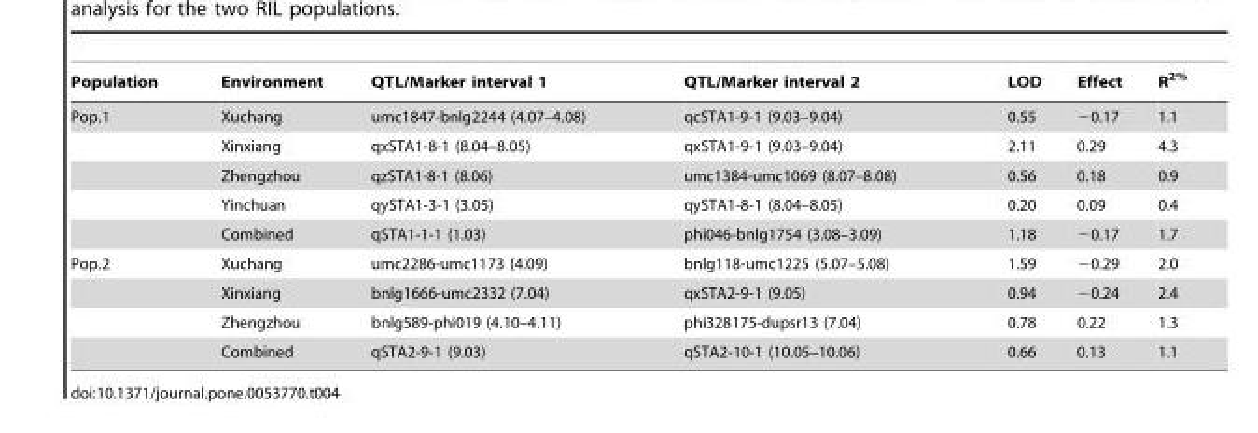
<table><thead><tr><td>Population</td><td>Environment</td><td>QTL/Marker interval 1</td><td>QTL/Marker interval 2</td><td>LOD</td><td>Effect</td><td>R<sup>2%</sup></td></tr></thead><tbody><tr><td rowspan="5">Pop.1</td><td>Xuchang</td><td>umc1847-bnlg2244 (4.07–4.08)</td><td>qcSTA1-9-1 (9.03–9.04)</td><td>0.55</td><td>−0.17</td><td>1.1</td></tr><tr><td>Xinxiang</td><td>qxSTA1-8-1 (8.04–8.05)</td><td>qxSTA1-9-1 (9.03–9.04)</td><td>2.11</td><td>0.29</td><td>4.3</td></tr><tr><td>Zhengzhou</td><td>qzSTA1-8-1 (8.06)</td><td>umc1384-umc1069 (8.07–8.08)</td><td>0.56</td><td>0.18</td><td>0.9</td></tr><tr><td>Yinchuan</td><td>qySTA1-3-1 (3.05)</td><td>qySTA1-8-1 (8.04–8.05)</td><td>0.20</td><td>0.09</td><td>0.4</td></tr><tr><td>Combined</td><td>qSTA1-1-1 (1.03)</td><td>phi046-bnlg1754 (3.08–3.09)</td><td>1.18</td><td>−0.17</td><td>1.7</td></tr><tr><td rowspan="4">Pop.2</td><td>Xuchang</td><td>umc2286-umc1173 (4.09)</td><td>bnlg118-umc1225 (5.07–5.08)</td><td>1.59</td><td>−0.29</td><td>2.0</td></tr><tr><td>Xinxiang</td><td>bnlg1666-umc2332 (7.04)</td><td>qxSTA2-9-1 (9.05)</td><td>0.94</td><td>−0.24</td><td>2.4</td></tr><tr><td>Zhengzhou</td><td>bnlg589-phi019 (4.10–4.11)</td><td>phi328175-dupsr13 (7.04)</td><td>0.78</td><td>0.22</td><td>1.3</td></tr><tr><td>Combined</td><td>qSTA2-9-1 (9.03)</td><td>qSTA2-10-1 (10.05–10.06)</td><td>0.66</td><td>0.13</td><td>1.1</td></tr></tbody></table>